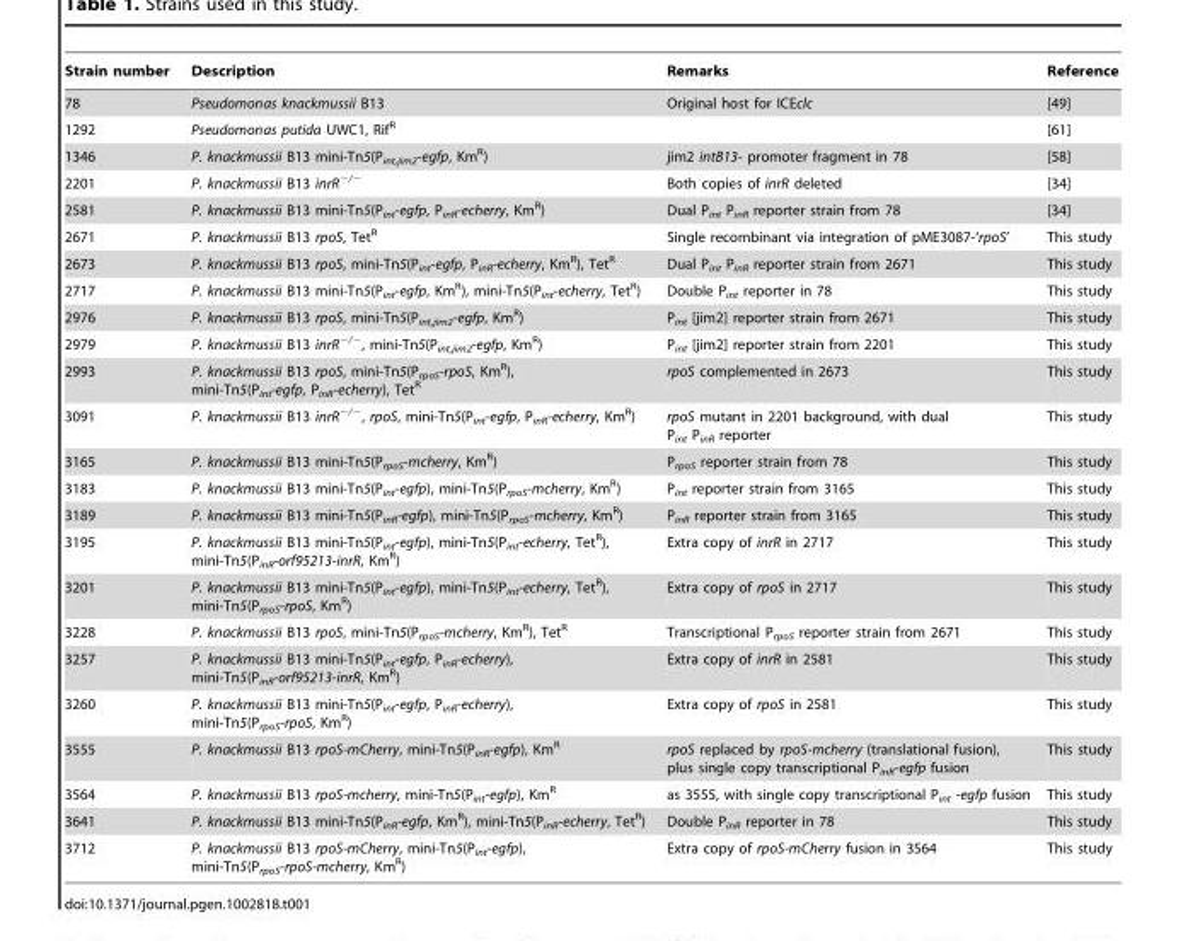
<table><thead><tr><td>Strain number</td><td>Description</td><td>Remarks</td><td>Reference</td></tr></thead><tbody><tr><td>78</td><td>Pseudomonas knackmussii B13</td><td>Original host for ICEclc</td><td>[49]</td></tr><tr><td>1292</td><td>Pseudomonas putida UWC1, Rif<sup>R</sup></td><td></td><td>[61]</td></tr><tr><td>1346</td><td>P. knackmussii B13 mini-Tn5(P<sub>int,jim2</sub>-egfp, Km<sup>R</sup>)</td><td>jim2 intB13- promoter fragment in 78</td><td>[58]</td></tr><tr><td>2201</td><td>P. knackmussii B13 inrR<sup>−/−</sup></td><td>Both copies of inrR deleted</td><td>[34]</td></tr><tr><td>2581</td><td>P. knackmussii B13 mini-Tn5(P<sub>int</sub>-egfp, P<sub>inR</sub>-echerry, Km<sup>R</sup>)</td><td>Dual P<sub>int</sub> P<sub>inR</sub> reporter strain from 78</td><td>[34]</td></tr><tr><td>2671</td><td>P. knackmussii B13 rpoS, Tet<sup>R</sup></td><td>Single recombinant via integration of pME3087-‘rpoS’</td><td>This study</td></tr><tr><td>2673</td><td>P. knackmussii B13 rpoS, mini-Tn5(P<sub>int</sub>-egfp, P<sub>inR</sub>-echerry, Km<sup>R</sup>), Tet<sup>R</sup></td><td>Dual P<sub>int</sub> P<sub>inR</sub> reporter strain from 2671</td><td>This study</td></tr><tr><td>2717</td><td>P. knackmussii B13 mini-Tn5(P<sub>int</sub>-egfp, Km<sup>R</sup>), mini-Tn5(P<sub>int</sub>-echerry, Tet<sup>R</sup>)</td><td>Double P<sub>int</sub> reporter in 78</td><td>This study</td></tr><tr><td>2976</td><td>P. knackmussii B13 rpoS, mini-Tn5(P<sub>int,jim2</sub>-egfp, Km<sup>R</sup>)</td><td>P<sub>int</sub> [jim2] reporter strain from 2671</td><td>This study</td></tr><tr><td>2979</td><td>P. knackmussii B13 inrR<sup>−/−</sup>, mini-Tn5(P<sub>int,jim2</sub>-egfp, Km<sup>R</sup>)</td><td>P<sub>int</sub> [jim2] reporter strain from 2201</td><td>This study</td></tr><tr><td>2993</td><td>P. knackmussii B13 rpoS, mini-Tn5(P<sub>rpoS</sub>-rpoS, Km<sup>R</sup>), mini-Tn5(P<sub>int</sub>-egfp, P<sub>inR</sub>-echerry), Tet<sup>R</sup></td><td>rpoS complemented in 2673</td><td>This study</td></tr><tr><td>3091</td><td>P. knackmussii B13 inrR<sup>−/−</sup>, rpoS, mini-Tn5(P<sub>int</sub>-egfp, P<sub>inR</sub>-echerry, Km<sup>R</sup>)</td><td>rpoS mutant in 2201 background, with dual P<sub>int</sub> P<sub>inR</sub> reporter</td><td>This study</td></tr><tr><td>3165</td><td>P. knackmussii B13 mini-Tn5(P<sub>rpoS</sub>-mcherry, Km<sup>R</sup>)</td><td>P<sub>rpoS</sub> reporter strain from 78</td><td>This study</td></tr><tr><td>3183</td><td>P. knackmussii B13 mini-Tn5(P<sub>int</sub>-egfp), mini-Tn5(P<sub>rpoS</sub>-mcherry, Km<sup>R</sup>)</td><td>P<sub>int</sub> reporter strain from 3165</td><td>This study</td></tr><tr><td>3189</td><td>P. knackmussii B13 mini-Tn5(P<sub>inR</sub>-egfp), mini-Tn5(P<sub>rpoS</sub>-mcherry, Km<sup>R</sup>)</td><td>P<sub>inR</sub> reporter strain from 3165</td><td>This study</td></tr><tr><td>3195</td><td>P. knackmussii B13 mini-Tn5(P<sub>int</sub>-egfp), mini-Tn5(P<sub>int</sub>-echerry, Tet<sup>R</sup>), mini-Tn5(P<sub>inR</sub>-orf95213-inrR, Km<sup>R</sup>)</td><td>Extra copy of inrR in 2717</td><td>This study</td></tr><tr><td>3201</td><td>P. knackmussii B13 mini-Tn5(P<sub>int</sub>-egfp), mini-Tn5(P<sub>int</sub>-echerry, Tet<sup>R</sup>), mini-Tn5(P<sub>rpoS</sub>-rpoS, Km<sup>R</sup>)</td><td>Extra copy of rpoS in 2717</td><td>This study</td></tr><tr><td>3228</td><td>P. knackmussii B13 rpoS, mini-Tn5(P<sub>rpoS</sub>-mcherry, Km<sup>R</sup>), Tet<sup>R</sup></td><td>Transcriptional P<sub>rpoS</sub> reporter strain from 2671</td><td>This study</td></tr><tr><td>3257</td><td>P. knackmussii B13 mini-Tn5(P<sub>int</sub>-egfp, P<sub>inR</sub>-echerry), mini-Tn5(P<sub>inR</sub>-orf95213-inrR, Km<sup>R</sup>)</td><td>Extra copy of inrR in 2581</td><td>This study</td></tr><tr><td>3260</td><td>P. knackmussii B13 mini-Tn5(P<sub>int</sub>-egfp, P<sub>inR</sub>-echerry), mini-Tn5(P<sub>rpoS</sub>-rpoS, Km<sup>R</sup>)</td><td>Extra copy of rpoS in 2581</td><td>This study</td></tr><tr><td>3555</td><td>P. knackmussii B13 rpoS-mCherry, mini-Tn5(P<sub>inR</sub>-egfp), Km<sup>R</sup></td><td>rpoS replaced by rpoS-mcherry (translational fusion), plus single copy transcriptional P<sub>inR</sub>-egfp fusion</td><td>This study</td></tr><tr><td>3564</td><td>P. knackmussii B13 rpoS-mcherry, mini-Tn5(P<sub>int</sub>-egfp), Km<sup>R</sup></td><td>as 3555, with single copy transcriptional P<sub>int</sub> -egfp fusion</td><td>This study</td></tr><tr><td>3641</td><td>P. knackmussii B13 mini-Tn5(P<sub>inR</sub>-egfp, Km<sup>R</sup>), mini-Tn5(P<sub>inR</sub>-echerry, Tet<sup>R</sup>)</td><td>Double P<sub>inR</sub> reporter in 78</td><td>This study</td></tr><tr><td>3712</td><td>P. knackmussii B13 rpoS-mCherry, mini-Tn5(P<sub>int</sub>-egfp), mini-Tn5(P<sub>rpoS</sub>-rpoS-mcherry, Km<sup>R</sup>)</td><td>Extra copy of rpoS-mCherry fusion in 3564</td><td>This study</td></tr></tbody></table>